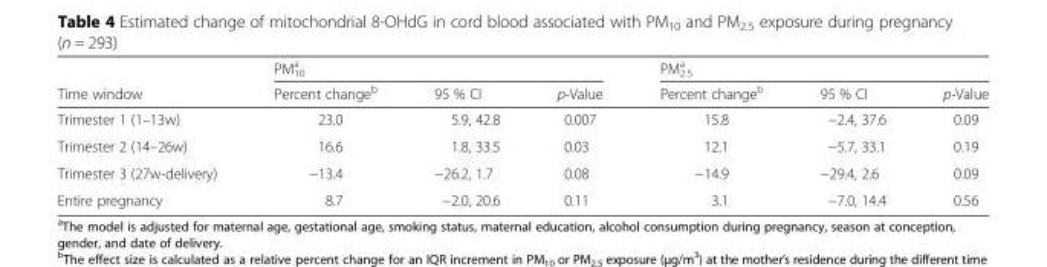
<table><thead><tr><td rowspan="2">Time window</td><td colspan="3">PM<sub>10</sub> <sup>a</sup></td><td colspan="3">PM<sub>2.5</sub> <sup>a</sup></td></tr><tr><td>Percent change<sup>b</sup></td><td>95 % CI</td><td>p-Value</td><td>Percent change<sup>b</sup></td><td>95 % CI</td><td>p-Value</td></tr></thead><tbody><tr><td>Trimester 1 (1–13w)</td><td>23.0</td><td>5.9, 42.8</td><td>0.007</td><td>15.8</td><td>−2.4, 37.6</td><td>0.09</td></tr><tr><td>Trimester 2 (14–26w)</td><td>16.6</td><td>1.8, 33.5</td><td>0.03</td><td>12.1</td><td>−5.7, 33.1</td><td>0.19</td></tr><tr><td>Trimester 3 (27w-delivery)</td><td>−13.4</td><td>−26.2, 1.7</td><td>0.08</td><td>−14.9</td><td>−29.4, 2.6</td><td>0.09</td></tr><tr><td>Entire pregnancy</td><td>8.7</td><td>−2.0, 20.6</td><td>0.11</td><td>3.1</td><td>−7.0, 14.4</td><td>0.56</td></tr></tbody></table>